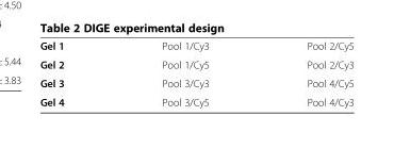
<table><tbody><tr><td>Gel 1</td><td>Pool 1/Cy3</td><td>Pool 2/Cy5</td></tr><tr><td>Gel 2</td><td>Pool 1/Cy5</td><td>Pool 2/Cy3</td></tr><tr><td>Gel 3</td><td>Pool 3/Cy3</td><td>Pool 4/Cy5</td></tr><tr><td>Gel 4</td><td>Pool 3/Cy5</td><td>Pool 4/Cy3</td></tr></tbody></table>